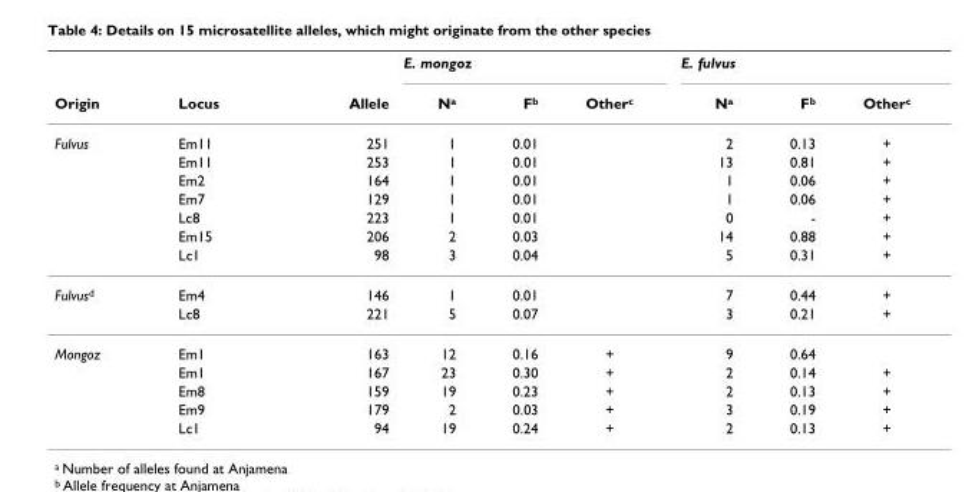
<table><thead><tr><td rowspan="2">Origin</td><td rowspan="2">Locus</td><td rowspan="2">Allele</td><td colspan="3">E. mongoz</td><td colspan="3">E. fulvus</td></tr><tr><td>N<sup>a</sup></td><td>F<sup>b</sup></td><td>Other<sup>c</sup></td><td>N<sup>a</sup></td><td>F<sup>b</sup></td><td>Other<sup>c</sup></td></tr></thead><tbody><tr><td rowspan="7">Fulvus</td><td>Em11</td><td>251</td><td>1</td><td>0.01</td><td></td><td>2</td><td>0.13</td><td>+</td></tr><tr><td>Em11</td><td>253</td><td>1</td><td>0.01</td><td></td><td>13</td><td>0.81</td><td>+</td></tr><tr><td>Em2</td><td>164</td><td>1</td><td>0.01</td><td></td><td>1</td><td>0.06</td><td>+</td></tr><tr><td>Em7</td><td>129</td><td>1</td><td>0.01</td><td></td><td>1</td><td>0.06</td><td>+</td></tr><tr><td>Lc8</td><td>223</td><td>1</td><td>0.01</td><td></td><td>0</td><td>-</td><td>+</td></tr><tr><td>Em15</td><td>206</td><td>2</td><td>0.03</td><td></td><td>14</td><td>0.88</td><td>+</td></tr><tr><td>Lc1</td><td>98</td><td>3</td><td>0.04</td><td></td><td>5</td><td>0.31</td><td>+</td></tr><tr><td rowspan="2">Fulvus<sup>d</sup></td><td>Em4</td><td>146</td><td>1</td><td>0.01</td><td></td><td>7</td><td>0.44</td><td>+</td></tr><tr><td>Lc8</td><td>221</td><td>5</td><td>0.07</td><td></td><td>3</td><td>0.21</td><td>+</td></tr><tr><td rowspan="5">Mongoz</td><td>Em1</td><td>163</td><td>12</td><td>0.16</td><td>+</td><td>9</td><td>0.64</td><td></td></tr><tr><td>Em1</td><td>167</td><td>23</td><td>0.30</td><td>+</td><td>2</td><td>0.14</td><td>+</td></tr><tr><td>Em8</td><td>159</td><td>19</td><td>0.23</td><td>+</td><td>2</td><td>0.13</td><td>+</td></tr><tr><td>Em9</td><td>179</td><td>2</td><td>0.03</td><td>+</td><td>3</td><td>0.19</td><td>+</td></tr><tr><td>Lc1</td><td>94</td><td>19</td><td>0.24</td><td>+</td><td>2</td><td>0.13</td><td>+</td></tr></tbody></table>